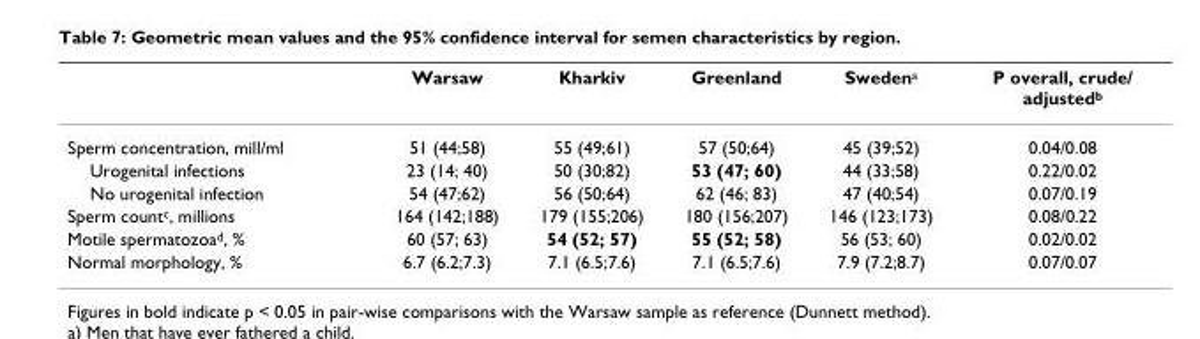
<table><thead><tr><td></td><td>Warsaw</td><td>Kharkiv</td><td>Greenland</td><td>Sweden<sup>a</sup></td><td>P overall, crude/ adjusted<sup>b</sup></td></tr></thead><tbody><tr><td>Sperm concentration, mill/ml</td><td>51 (44;58)</td><td>55 (49;61)</td><td>57 (50;64)</td><td>45 (39;52)</td><td>0.04/0.08</td></tr><tr><td>Urogenital infections</td><td>23 (14; 40)</td><td>50 (30;82)</td><td>53 (47; 60)</td><td>44 (33;58)</td><td>0.22/0.02</td></tr><tr><td>No urogenital infection</td><td>54 (47;62)</td><td>56 (50;64)</td><td>62 (46; 83)</td><td>47 (40;54)</td><td>0.07/0.19</td></tr><tr><td>Sperm count<sup>c</sup>, millions</td><td>164 (142;188)</td><td>179 (155;206)</td><td>180 (156;207)</td><td>146 (123;173)</td><td>0.08/0.22</td></tr><tr><td>Motile spermatozoa<sup>d</sup>, %</td><td>60 (57; 63)</td><td>54 (52; 57)</td><td>55 (52; 58)</td><td>56 (53; 60)</td><td>0.02/0.02</td></tr><tr><td>Normal morphology, %</td><td>6.7 (6.2;7.3)</td><td>7.1 (6.5;7.6)</td><td>7.1 (6.5;7.6)</td><td>7.9 (7.2;8.7)</td><td>0.07/0.07</td></tr></tbody></table>